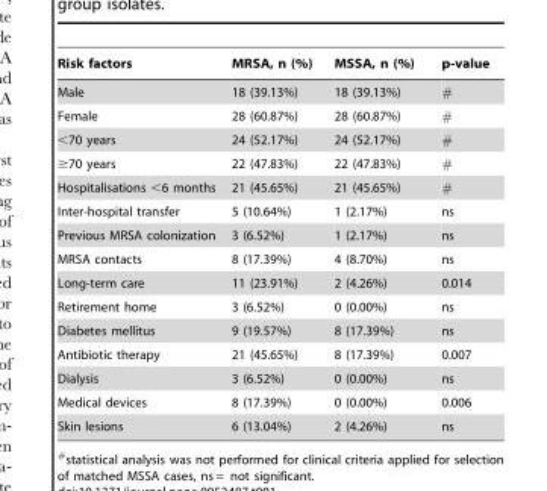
<table><thead><tr><td>Risk factors</td><td>MRSA, n (%)</td><td>MSSA, n (%)</td><td>p-value</td></tr></thead><tbody><tr><td>Male</td><td>18 (39.13%)</td><td>18 (39.13%)</td><td>#</td></tr><tr><td>Female</td><td>28 (60.87%)</td><td>28 (60.87%)</td><td>#</td></tr><tr><td>&lt;70 years</td><td>24 (52.17%)</td><td>24 (52.17%)</td><td>#</td></tr><tr><td>≥70 years</td><td>22 (47.83%)</td><td>22 (47.83%)</td><td>#</td></tr><tr><td>Hospitalisations &lt;6 months</td><td>21 (45.65%)</td><td>21 (45.65%)</td><td>#</td></tr><tr><td>Inter-hospital transfer</td><td>5 (10.64%)</td><td>1 (2.17%)</td><td>ns</td></tr><tr><td>Previous MRSA colonization</td><td>3 (6.52%)</td><td>1 (2.17%)</td><td>ns</td></tr><tr><td>MRSA contacts</td><td>8 (17.39%)</td><td>4 (8.70%)</td><td>ns</td></tr><tr><td>Long-term care</td><td>11 (23.91%)</td><td>2 (4.26%)</td><td>0.014</td></tr><tr><td>Retirement home</td><td>3 (6.52%)</td><td>0 (0.00%)</td><td>ns</td></tr><tr><td>Diabetes mellitus</td><td>9 (19.57%)</td><td>8 (17.39%)</td><td>ns</td></tr><tr><td>Antibiotic therapy</td><td>21 (45.65%)</td><td>8 (17.39%)</td><td>0.007</td></tr><tr><td>Dialysis</td><td>3 (6.52%)</td><td>0 (0.00%)</td><td>ns</td></tr><tr><td>Medical devices</td><td>8 (17.39%)</td><td>0 (0.00%)</td><td>0.006</td></tr><tr><td>Skin lesions</td><td>6 (13.04%)</td><td>2 (4.26%)</td><td>ns</td></tr></tbody></table>